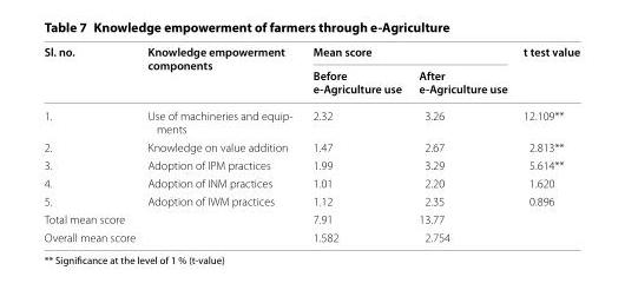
<table><thead><tr><td rowspan="2">Sl. no.</td><td rowspan="2">Knowledge empowerment components</td><td colspan="2">Mean score</td><td rowspan="2">t test value</td></tr><tr><td>Before e‑Agriculture use</td><td>After e‑Agriculture use</td></tr></thead><tbody><tr><td>1.</td><td>Use of machineries and equip- ments</td><td>2.32</td><td>3.26</td><td>12.109**</td></tr><tr><td>2.</td><td>Knowledge on value addition</td><td>1.47</td><td>2.67</td><td>2.813**</td></tr><tr><td>3.</td><td>Adoption of IPM practices</td><td>1.99</td><td>3.29</td><td>5.614**</td></tr><tr><td>4.</td><td>Adoption of INM practices</td><td>1.01</td><td>2.20</td><td>1.620</td></tr><tr><td>5.</td><td>Adoption of IWM practices</td><td>1.12</td><td>2.35</td><td>0.896</td></tr><tr><td colspan="2">Total mean score</td><td>7.91</td><td>13.77</td><td></td></tr><tr><td colspan="2">Overall mean score</td><td>1.582</td><td>2.754</td><td></td></tr></tbody></table>